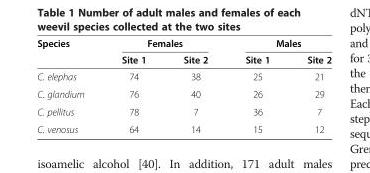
<table><thead><tr><td rowspan="2">Species</td><td colspan="2">Females</td><td colspan="2">Males</td></tr><tr><td>Site 1</td><td>Site 2</td><td>Site 1</td><td>Site 2</td></tr></thead><tbody><tr><td>C. elephas</td><td>74</td><td>38</td><td>25</td><td>21</td></tr><tr><td>C. glandium</td><td>76</td><td>40</td><td>26</td><td>29</td></tr><tr><td>C. pellitus</td><td>78</td><td>7</td><td>36</td><td>7</td></tr><tr><td>C. venosus</td><td>64</td><td>14</td><td>15</td><td>12</td></tr></tbody></table>